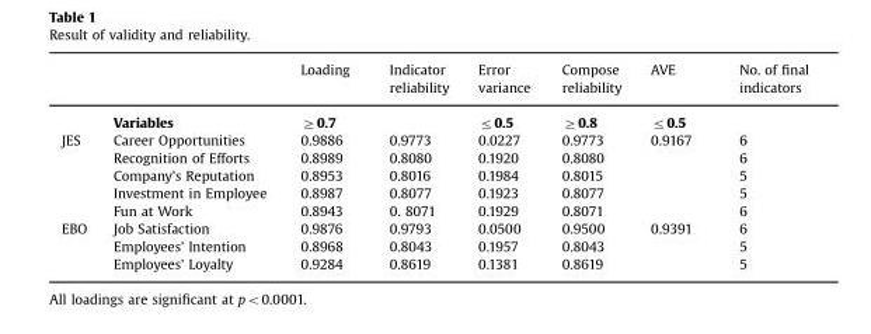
<table><thead><tr><td></td><td></td><td>Loading</td><td>Indicator reliability</td><td>Error variance</td><td>Compose reliability</td><td>AVE</td><td>No. of final indicators</td></tr></thead><tbody><tr><td></td><td>Variables</td><td>≥0.7</td><td></td><td>≤0.5</td><td>≥0.8</td><td>≤0.5</td><td></td></tr><tr><td rowspan="5">JES</td><td>Career Opportunities</td><td>0.9886</td><td>0.9773</td><td>0.0227</td><td>0.9773</td><td rowspan="5">0.9167</td><td>6</td></tr><tr><td>Recognition of Efforts</td><td>0.8989</td><td>0.8080</td><td>0.1920</td><td>0.8080</td><td>6</td></tr><tr><td>Company&#x27;s Reputation</td><td>0.8953</td><td>0.8016</td><td>0.1984</td><td>0.8015</td><td>5</td></tr><tr><td>Investment in Employee</td><td>0.8987</td><td>0.8077</td><td>0.1923</td><td>0.8077</td><td>5</td></tr><tr><td>Fun at Work</td><td>0.8943</td><td>0. 8071</td><td>0.1929</td><td>0.8071</td><td>6</td></tr><tr><td rowspan="3">EBO</td><td>Job Satisfaction</td><td>0.9876</td><td>0.9793</td><td>0.0500</td><td>0.9500</td><td rowspan="3">0.9391</td><td>6</td></tr><tr><td>Employees’ Intention</td><td>0.8968</td><td>0.8043</td><td>0.1957</td><td>0.8043</td><td>5</td></tr><tr><td>Employees’ Loyalty</td><td>0.9284</td><td>0.8619</td><td>0.1381</td><td>0.8619</td><td>5</td></tr></tbody></table>